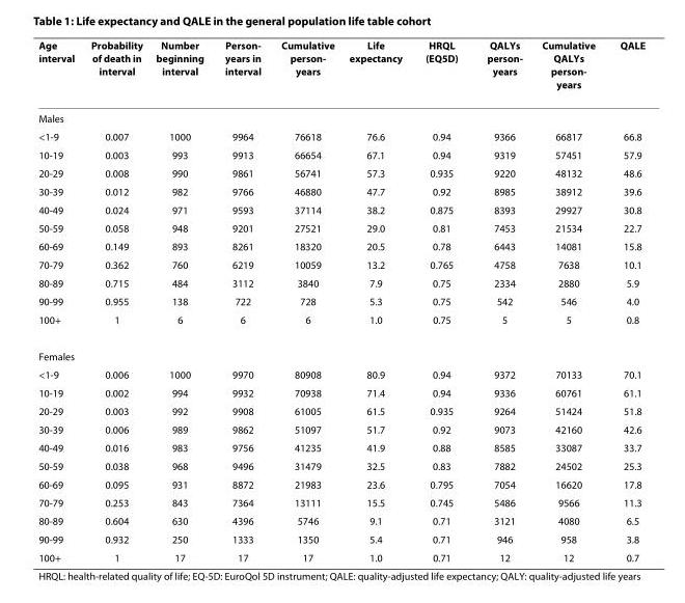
<table><thead><tr><td>Age interval</td><td>Probability of death in interval</td><td>Number beginning interval</td><td>Person- years in interval</td><td>Cumulative person- years</td><td>Life expectancy</td><td>HRQL (EQ5D)</td><td>QALYs person- years</td><td>Cumulative QALYs person- years</td><td>QALE</td></tr></thead><tbody><tr><td colspan="10">Males</td></tr><tr><td>&lt;1-9</td><td>0.007</td><td>1000</td><td>9964</td><td>76618</td><td>76.6</td><td>0.94</td><td>9366</td><td>66817</td><td>66.8</td></tr><tr><td>10-19</td><td>0.003</td><td>993</td><td>9913</td><td>66654</td><td>67.1</td><td>0.94</td><td>9319</td><td>57451</td><td>57.9</td></tr><tr><td>20-29</td><td>0.008</td><td>990</td><td>9861</td><td>56741</td><td>57.3</td><td>0.935</td><td>9220</td><td>48132</td><td>48.6</td></tr><tr><td>30-39</td><td>0.012</td><td>982</td><td>9766</td><td>46880</td><td>47.7</td><td>0.92</td><td>8985</td><td>38912</td><td>39.6</td></tr><tr><td>40-49</td><td>0.024</td><td>971</td><td>9593</td><td>37114</td><td>38.2</td><td>0.875</td><td>8393</td><td>29927</td><td>30.8</td></tr><tr><td>50-59</td><td>0.058</td><td>948</td><td>9201</td><td>27521</td><td>29.0</td><td>0.81</td><td>7453</td><td>21534</td><td>22.7</td></tr><tr><td>60-69</td><td>0.149</td><td>893</td><td>8261</td><td>18320</td><td>20.5</td><td>0.78</td><td>6443</td><td>14081</td><td>15.8</td></tr><tr><td>70-79</td><td>0.362</td><td>760</td><td>6219</td><td>10059</td><td>13.2</td><td>0.765</td><td>4758</td><td>7638</td><td>10.1</td></tr><tr><td>80-89</td><td>0.715</td><td>484</td><td>3112</td><td>3840</td><td>7.9</td><td>0.75</td><td>2334</td><td>2880</td><td>5.9</td></tr><tr><td>90-99</td><td>0.955</td><td>138</td><td>722</td><td>728</td><td>5.3</td><td>0.75</td><td>542</td><td>546</td><td>4.0</td></tr><tr><td>100+</td><td>1</td><td>6</td><td>6</td><td>6</td><td>1.0</td><td>0.75</td><td>5</td><td>5</td><td>0.8</td></tr><tr><td colspan="10">Females</td></tr><tr><td>&lt;1-9</td><td>0.006</td><td>1000</td><td>9970</td><td>80908</td><td>80.9</td><td>0.94</td><td>9372</td><td>70133</td><td>70.1</td></tr><tr><td>10-19</td><td>0.002</td><td>994</td><td>9932</td><td>70938</td><td>71.4</td><td>0.94</td><td>9336</td><td>60761</td><td>61.1</td></tr><tr><td>20-29</td><td>0.003</td><td>992</td><td>9908</td><td>61005</td><td>61.5</td><td>0.935</td><td>9264</td><td>51424</td><td>51.8</td></tr><tr><td>30-39</td><td>0.006</td><td>989</td><td>9862</td><td>51097</td><td>51.7</td><td>0.92</td><td>9073</td><td>42160</td><td>42.6</td></tr><tr><td>40-49</td><td>0.016</td><td>983</td><td>9756</td><td>41235</td><td>41.9</td><td>0.88</td><td>8585</td><td>33087</td><td>33.7</td></tr><tr><td>50-59</td><td>0.038</td><td>968</td><td>9496</td><td>31479</td><td>32.5</td><td>0.83</td><td>7882</td><td>24502</td><td>25.3</td></tr><tr><td>60-69</td><td>0.095</td><td>931</td><td>8872</td><td>21983</td><td>23.6</td><td>0.795</td><td>7054</td><td>16620</td><td>17.8</td></tr><tr><td>70-79</td><td>0.253</td><td>843</td><td>7364</td><td>13111</td><td>15.5</td><td>0.745</td><td>5486</td><td>9566</td><td>11.3</td></tr><tr><td>80-89</td><td>0.604</td><td>630</td><td>4396</td><td>5746</td><td>9.1</td><td>0.71</td><td>3121</td><td>4080</td><td>6.5</td></tr><tr><td>90-99</td><td>0.932</td><td>250</td><td>1333</td><td>1350</td><td>5.4</td><td>0.71</td><td>946</td><td>958</td><td>3.8</td></tr><tr><td>100+</td><td>1</td><td>17</td><td>17</td><td>17</td><td>1.0</td><td>0.71</td><td>12</td><td>12</td><td>0.7</td></tr></tbody></table>